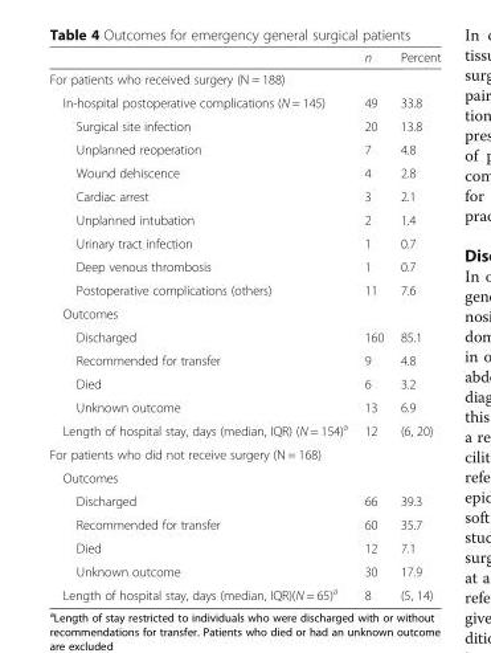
<table><thead><tr><td></td><td>n</td><td>Percent</td></tr></thead><tbody><tr><td colspan="3">For patients who received surgery (N = 188)</td></tr><tr><td>In-hospital postoperative complications (N = 145)</td><td>49</td><td>33.8</td></tr><tr><td>Surgical site infection</td><td>20</td><td>13.8</td></tr><tr><td>Unplanned reoperation</td><td>7</td><td>4.8</td></tr><tr><td>Wound dehiscence</td><td>4</td><td>2.8</td></tr><tr><td>Cardiac arrest</td><td>3</td><td>2.1</td></tr><tr><td>Unplanned intubation</td><td>2</td><td>1.4</td></tr><tr><td>Urinary tract infection</td><td>1</td><td>0.7</td></tr><tr><td>Deep venous thrombosis</td><td>1</td><td>0.7</td></tr><tr><td>Postoperative complications (others)</td><td>11</td><td>7.6</td></tr><tr><td colspan="3">Outcomes</td></tr><tr><td>Discharged</td><td>160</td><td>85.1</td></tr><tr><td>Recommended for transfer</td><td>9</td><td>4.8</td></tr><tr><td>Died</td><td>6</td><td>3.2</td></tr><tr><td>Unknown outcome</td><td>13</td><td>6.9</td></tr><tr><td>Length of hospital stay, days (median, IQR) (N = 154)<sup>a</sup></td><td>12</td><td>(6, 20)</td></tr><tr><td colspan="3">For patients who did not receive surgery (N = 168)</td></tr><tr><td colspan="3">Outcomes</td></tr><tr><td>Discharged</td><td>66</td><td>39.3</td></tr><tr><td>Recommended for transfer</td><td>60</td><td>35.7</td></tr><tr><td>Died</td><td>12</td><td>7.1</td></tr><tr><td>Unknown outcome</td><td>30</td><td>17.9</td></tr><tr><td>Length of hospital stay, days (median, IQR)(N = 65)<sup>a</sup></td><td>8</td><td>(5, 14)</td></tr></tbody></table>